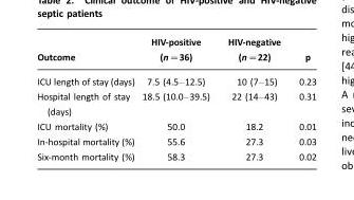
<table><thead><tr><td>Outcome</td><td>HIV-positive (n=36)</td><td>HIV-negative (n=22)</td><td>p</td></tr></thead><tbody><tr><td>ICU length of stay (days)</td><td>7.5 (4.5–12.5)</td><td>10 (7–15)</td><td>0.23</td></tr><tr><td>Hospital length of stay (days)</td><td>18.5 (10.0–39.5)</td><td>22 (14–43)</td><td>0.31</td></tr><tr><td>ICU mortality (%)</td><td>50.0</td><td>18.2</td><td>0.01</td></tr><tr><td>In-hospital mortality (%)</td><td>55.6</td><td>27.3</td><td>0.03</td></tr><tr><td>Six-month mortality (%)</td><td>58.3</td><td>27.3</td><td>0.02</td></tr></tbody></table>